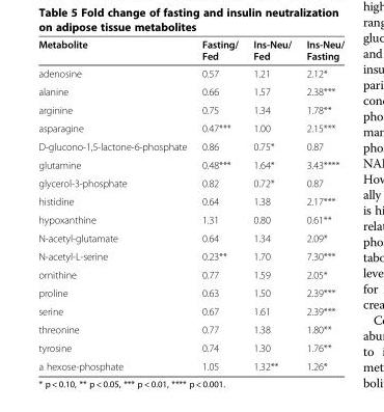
<table><thead><tr><td>Metabolite</td><td>Fasting/ Fed</td><td>Ins-Neu/ Fed</td><td>Ins-Neu/ Fasting</td></tr></thead><tbody><tr><td>adenosine</td><td>0.57</td><td>1.21</td><td>2.12*</td></tr><tr><td>alanine</td><td>0.66</td><td>1.57</td><td>2.38***</td></tr><tr><td>arginine</td><td>0.75</td><td>1.34</td><td>1.78**</td></tr><tr><td>asparagine</td><td>0.47***</td><td>1.00</td><td>2.15***</td></tr><tr><td>D-glucono-1,5-lactone-6-phosphate</td><td>0.86</td><td>0.75*</td><td>0.87</td></tr><tr><td>glutamine</td><td>0.48***</td><td>1.64*</td><td>3.43****</td></tr><tr><td>glycerol-3-phosphate</td><td>0.82</td><td>0.72*</td><td>0.87</td></tr><tr><td>histidine</td><td>0.64</td><td>1.38</td><td>2.17***</td></tr><tr><td>hypoxanthine</td><td>1.31</td><td>0.80</td><td>0.61**</td></tr><tr><td>N-acetyl-glutamate</td><td>0.64</td><td>1.34</td><td>2.09*</td></tr><tr><td>N-acetyl-L-serine</td><td>0.23**</td><td>1.70</td><td>7.30***</td></tr><tr><td>ornithine</td><td>0.77</td><td>1.59</td><td>2.05*</td></tr><tr><td>proline</td><td>0.63</td><td>1.50</td><td>2.39***</td></tr><tr><td>serine</td><td>0.67</td><td>1.61</td><td>2.39***</td></tr><tr><td>threonine</td><td>0.77</td><td>1.38</td><td>1.80**</td></tr><tr><td>tyrosine</td><td>0.74</td><td>1.30</td><td>1.76**</td></tr><tr><td>a hexose-phosphate</td><td>1.05</td><td>1.32**</td><td>1.26*</td></tr></tbody></table>